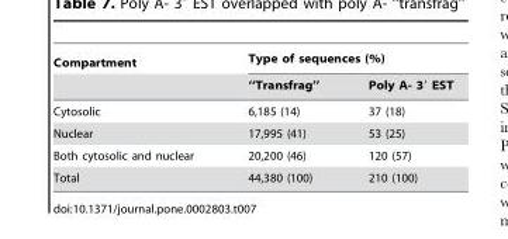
<table><thead><tr><td rowspan="2">Compartment</td><td colspan="2">Type of sequences (%)</td></tr><tr><td>‘‘Transfrag’’</td><td>Poly A- 3′ EST</td></tr></thead><tbody><tr><td>Cytosolic</td><td>6,185 (14)</td><td>37 (18)</td></tr><tr><td>Nuclear</td><td>17,995 (41)</td><td>53 (25)</td></tr><tr><td>Both cytosolic and nuclear</td><td>20,200 (46)</td><td>120 (57)</td></tr><tr><td>Total</td><td>44,380 (100)</td><td>210 (100)</td></tr></tbody></table>